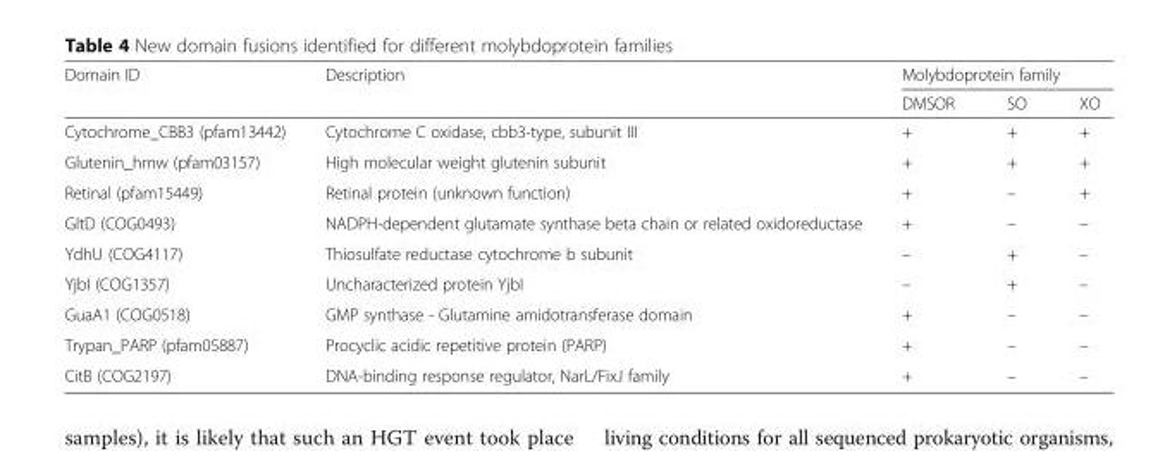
<table><thead><tr><td rowspan="2">Domain ID</td><td rowspan="2">Description</td><td colspan="3">Molybdoprotein family</td></tr><tr><td>DMSOR</td><td>SO</td><td>XO</td></tr></thead><tbody><tr><td>Cytochrome_CBB3 (pfam13442)</td><td>Cytochrome C oxidase, cbb3-type, subunit III</td><td>+</td><td>+</td><td>+</td></tr><tr><td>Glutenin_hmw (pfam03157)</td><td>High molecular weight glutenin subunit</td><td>+</td><td>+</td><td>+</td></tr><tr><td>Retinal (pfam15449)</td><td>Retinal protein (unknown function)</td><td>+</td><td>–</td><td>+</td></tr><tr><td>GltD (COG0493)</td><td>NADPH-dependent glutamate synthase beta chain or related oxidoreductase</td><td>+</td><td>–</td><td>–</td></tr><tr><td>YdhU (COG4117)</td><td>Thiosulfate reductase cytochrome b subunit</td><td>–</td><td>+</td><td>–</td></tr><tr><td>YjbI (COG1357)</td><td>Uncharacterized protein YjbI</td><td>–</td><td>+</td><td>–</td></tr><tr><td>GuaA1 (COG0518)</td><td>GMP synthase - Glutamine amidotransferase domain</td><td>+</td><td>–</td><td>–</td></tr><tr><td>Trypan_PARP (pfam05887)</td><td>Procyclic acidic repetitive protein (PARP)</td><td>+</td><td>–</td><td>–</td></tr><tr><td>CitB (COG2197)</td><td>DNA-binding response regulator, NarL/FixJ family</td><td>+</td><td>–</td><td>–</td></tr></tbody></table>